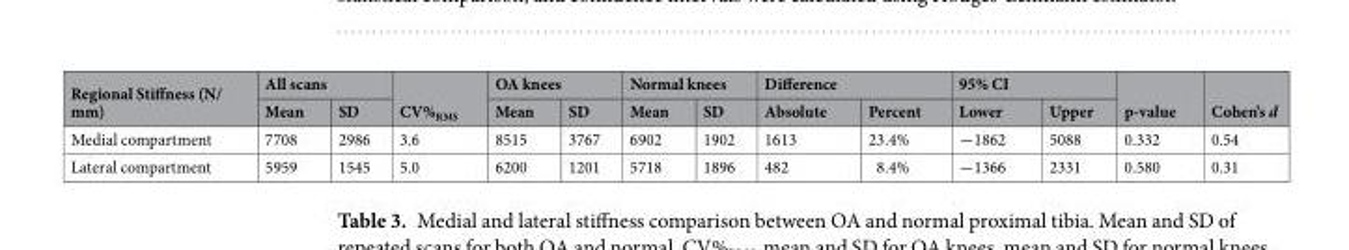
<table><thead><tr><td rowspan="2">Regional Stiffness (N/ mm)</td><td colspan="2">All scans</td><td rowspan="2">CV%<sub>RMS</sub></td><td colspan="2">OA knees</td><td colspan="2">Normal knees</td><td colspan="2">Difference</td><td colspan="2">95% CI</td><td rowspan="2">p-value</td><td rowspan="2">Cohen’s d</td></tr><tr><td>Mean</td><td>SD</td><td>Mean</td><td>SD</td><td>Mean</td><td>SD</td><td>Absolute</td><td>Percent</td><td>Lower</td><td>Upper</td></tr></thead><tbody><tr><td>Medial compartment</td><td>7708</td><td>2986</td><td>3.6</td><td>8515</td><td>3767</td><td>6902</td><td>1902</td><td>1613</td><td>23.4%</td><td>−1862</td><td>5088</td><td>0.332</td><td>0.54</td></tr><tr><td>Lateral compartment</td><td>5959</td><td>1545</td><td>5.0</td><td>6200</td><td>1201</td><td>5718</td><td>1896</td><td>482</td><td>8.4%</td><td>−1366</td><td>2331</td><td>0.580</td><td>0.31</td></tr></tbody></table>